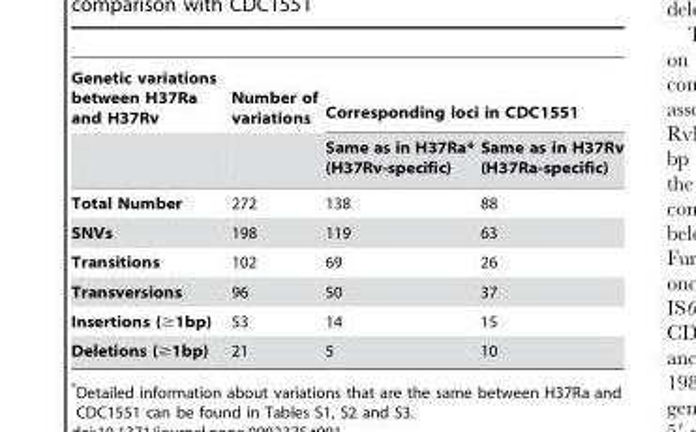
<table><thead><tr><td rowspan="2">Genetic variations between H37Ra and H37Rv</td><td rowspan="2">Number of variations</td><td colspan="2">Corresponding loci in CDC1551</td></tr><tr><td>Same as in H37Ra* (H37Rv-specific)</td><td>Same as in H37Rv (H37Ra-specific)</td></tr></thead><tbody><tr><td>Total Number</td><td>272</td><td>138</td><td>88</td></tr><tr><td>SNVs</td><td>198</td><td>119</td><td>63</td></tr><tr><td>Transitions</td><td>102</td><td>69</td><td>26</td></tr><tr><td>Transversions</td><td>96</td><td>50</td><td>37</td></tr><tr><td>Insertions (≥1bp)</td><td>53</td><td>14</td><td>15</td></tr><tr><td>Deletions (≥1bp)</td><td>21</td><td>5</td><td>10</td></tr></tbody></table>